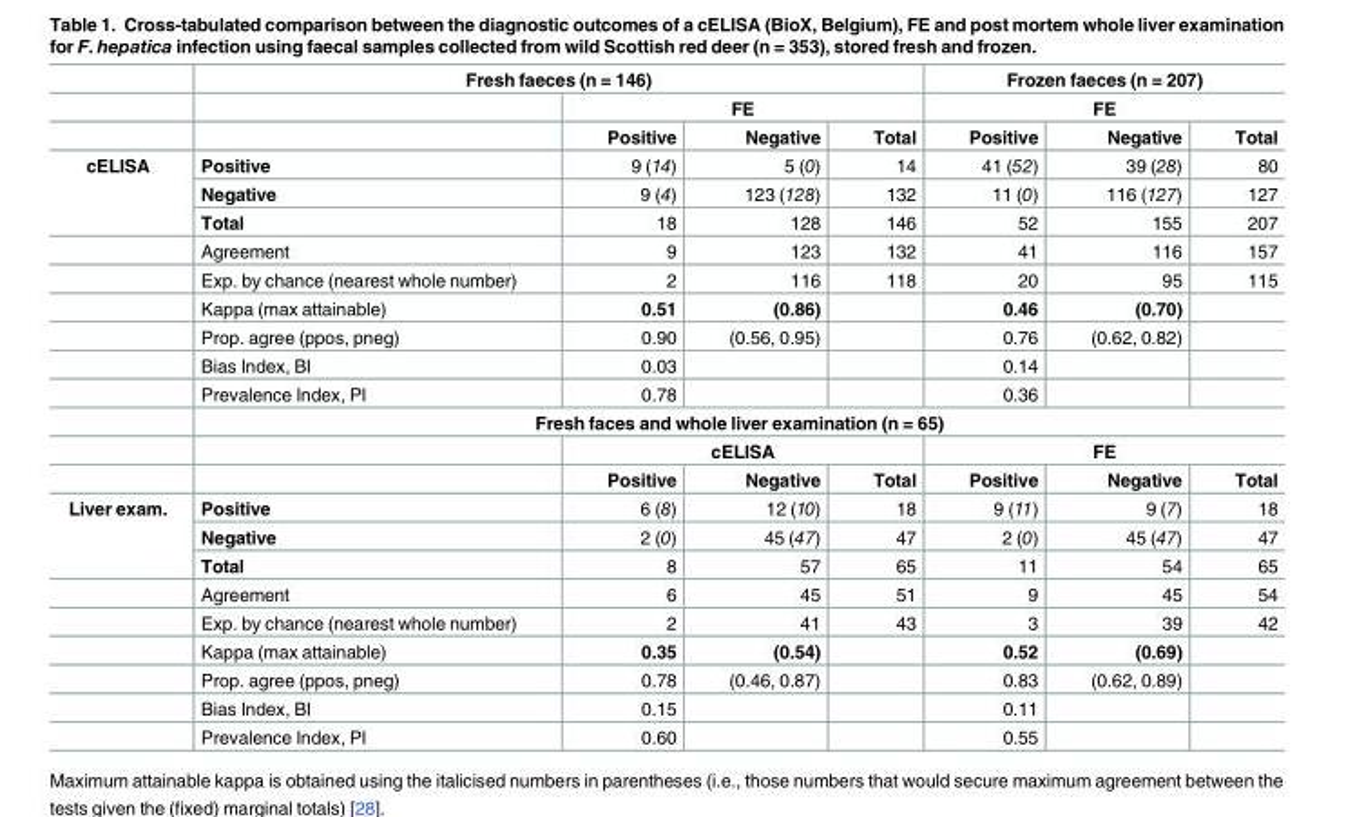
<table><thead><tr><td rowspan="3"></td><td colspan="4">Fresh faeces (n = 146)</td><td rowspan="2" colspan="3">Frozen faeces (n = 207) FE</td></tr><tr><td rowspan="2"></td><td colspan="3">FE</td></tr><tr><td>Positive</td><td>Negative</td><td>Total</td><td>Positive</td><td>Negative</td><td>Total</td></tr></thead><tbody><tr><td rowspan="12">cELISA</td><td>Positive</td><td>9 (14)</td><td>5 (0)</td><td>14</td><td>41 (52)</td><td>39 (28)</td><td>80</td></tr><tr><td>Negative</td><td>9 (4)</td><td>123 (128)</td><td>132</td><td>11 (0)</td><td>116 (127)</td><td>127</td></tr><tr><td>Total</td><td>18</td><td>128</td><td>146</td><td>52</td><td>155</td><td>207</td></tr><tr><td>Agreement</td><td>9</td><td>123</td><td>132</td><td>41</td><td>116</td><td>157</td></tr><tr><td>Exp. by chance (nearest whole number)</td><td>2</td><td>116</td><td>118</td><td>20</td><td>95</td><td>115</td></tr><tr><td>Kappa (max attainable)</td><td>0.51</td><td>(0.86)</td><td></td><td>0.46</td><td>(0.70)</td><td></td></tr><tr><td>Prop. agree (ppos, pneg)</td><td>0.90</td><td>(0.56, 0.95)</td><td></td><td>0.76</td><td>(0.62, 0.82)</td><td></td></tr><tr><td>Bias Index, BI</td><td>0.03</td><td></td><td></td><td>0.14</td><td></td><td></td></tr><tr><td>Prevalence Index, PI</td><td>0.78</td><td></td><td></td><td>0.36</td><td></td><td></td></tr><tr><td colspan="7">Fresh faces and whole liver examination (n = 65)</td></tr><tr><td></td><td colspan="3">cELISA</td><td colspan="3">FE</td></tr><tr><td></td><td>Positive</td><td>Negative</td><td>Total</td><td>Positive</td><td>Negative</td><td>Total</td></tr><tr><td rowspan="9">Liver exam.</td><td>Positive</td><td>6 (8)</td><td>12 (10)</td><td>18</td><td>9 (11)</td><td>9 (7)</td><td>18</td></tr><tr><td>Negative</td><td>2 (0)</td><td>45 (47)</td><td>47</td><td>2 (0)</td><td>45 (47)</td><td>47</td></tr><tr><td>Total</td><td>8</td><td>57</td><td>65</td><td>11</td><td>54</td><td>65</td></tr><tr><td>Agreement</td><td>6</td><td>45</td><td>51</td><td>9</td><td>45</td><td>54</td></tr><tr><td>Exp. by chance (nearest whole number)</td><td>2</td><td>41</td><td>43</td><td>3</td><td>39</td><td>42</td></tr><tr><td>Kappa (max attainable)</td><td>0.35</td><td>(0.54)</td><td></td><td>0.52</td><td>(0.69)</td><td></td></tr><tr><td>Prop. agree (ppos, pneg)</td><td>0.78</td><td>(0.46, 0.87)</td><td></td><td>0.83</td><td>(0.62, 0.89)</td><td></td></tr><tr><td>Bias Index, BI</td><td>0.15</td><td></td><td></td><td>0.11</td><td></td><td></td></tr><tr><td>Prevalence Index, PI</td><td>0.60</td><td></td><td></td><td>0.55</td><td></td><td></td></tr></tbody></table>